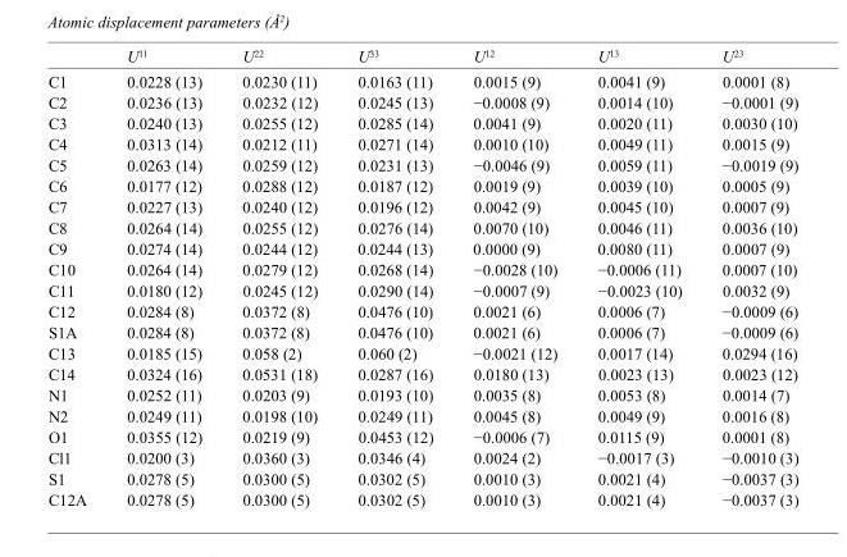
<table><thead><tr><td></td><td>U<sup>11</sup></td><td>U<sup>22</sup></td><td>U<sup>33</sup></td><td>U<sup>12</sup></td><td>U<sup>13</sup></td><td>U<sup>23</sup></td></tr></thead><tbody><tr><td>C1</td><td>0.0228 (13)</td><td>0.0230 (11)</td><td>0.0163 (11)</td><td>0.0015 (9)</td><td>0.0041 (9)</td><td>0.0001 (8)</td></tr><tr><td>C2</td><td>0.0236 (13)</td><td>0.0232 (12)</td><td>0.0245 (13)</td><td>−0.0008 (9)</td><td>0.0014 (10)</td><td>−0.0001 (9)</td></tr><tr><td>C3</td><td>0.0240 (13)</td><td>0.0255 (12)</td><td>0.0285 (14)</td><td>0.0041 (9)</td><td>0.0020 (11)</td><td>0.0030 (10)</td></tr><tr><td>C4</td><td>0.0313 (14)</td><td>0.0212 (11)</td><td>0.0271 (14)</td><td>0.0010 (10)</td><td>0.0049 (11)</td><td>0.0015 (9)</td></tr><tr><td>C5</td><td>0.0263 (14)</td><td>0.0259 (12)</td><td>0.0231 (13)</td><td>−0.0046 (9)</td><td>0.0059 (11)</td><td>−0.0019 (9)</td></tr><tr><td>C6</td><td>0.0177 (12)</td><td>0.0288 (12)</td><td>0.0187 (12)</td><td>0.0019 (9)</td><td>0.0039 (10)</td><td>0.0005 (9)</td></tr><tr><td>C7</td><td>0.0227 (13)</td><td>0.0240 (12)</td><td>0.0196 (12)</td><td>0.0042 (9)</td><td>0.0045 (10)</td><td>0.0007 (9)</td></tr><tr><td>C8</td><td>0.0264 (14)</td><td>0.0255 (12)</td><td>0.0276 (14)</td><td>0.0070 (10)</td><td>0.0046 (11)</td><td>0.0036 (10)</td></tr><tr><td>C9</td><td>0.0274 (14)</td><td>0.0244 (12)</td><td>0.0244 (13)</td><td>0.0000 (9)</td><td>0.0080 (11)</td><td>0.0007 (9)</td></tr><tr><td>C10</td><td>0.0264 (14)</td><td>0.0279 (12)</td><td>0.0268 (14)</td><td>−0.0028 (10)</td><td>−0.0006 (11)</td><td>0.0007 (10)</td></tr><tr><td>C11</td><td>0.0180 (12)</td><td>0.0245 (12)</td><td>0.0290 (14)</td><td>−0.0007 (9)</td><td>−0.0023 (10)</td><td>0.0032 (9)</td></tr><tr><td>C12</td><td>0.0284 (8)</td><td>0.0372 (8)</td><td>0.0476 (10)</td><td>0.0021 (6)</td><td>0.0006 (7)</td><td>−0.0009 (6)</td></tr><tr><td>S1A</td><td>0.0284 (8)</td><td>0.0372 (8)</td><td>0.0476 (10)</td><td>0.0021 (6)</td><td>0.0006 (7)</td><td>−0.0009 (6)</td></tr><tr><td>C13</td><td>0.0185 (15)</td><td>0.058 (2)</td><td>0.060 (2)</td><td>−0.0021 (12)</td><td>0.0017 (14)</td><td>0.0294 (16)</td></tr><tr><td>C14</td><td>0.0324 (16)</td><td>0.0531 (18)</td><td>0.0287 (16)</td><td>0.0180 (13)</td><td>0.0023 (13)</td><td>0.0023 (12)</td></tr><tr><td>N1</td><td>0.0252 (11)</td><td>0.0203 (9)</td><td>0.0193 (10)</td><td>0.0035 (8)</td><td>0.0053 (8)</td><td>0.0014 (7)</td></tr><tr><td>N2</td><td>0.0249 (11)</td><td>0.0198 (10)</td><td>0.0249 (11)</td><td>0.0045 (8)</td><td>0.0049 (9)</td><td>0.0016 (8)</td></tr><tr><td>O1</td><td>0.0355 (12)</td><td>0.0219 (9)</td><td>0.0453 (12)</td><td>−0.0006 (7)</td><td>0.0115 (9)</td><td>0.0001 (8)</td></tr><tr><td>Cl1</td><td>0.0200 (3)</td><td>0.0360 (3)</td><td>0.0346 (4)</td><td>0.0024 (2)</td><td>−0.0017 (3)</td><td>−0.0010 (3)</td></tr><tr><td>S1</td><td>0.0278 (5)</td><td>0.0300 (5)</td><td>0.0302 (5)</td><td>0.0010 (3)</td><td>0.0021 (4)</td><td>−0.0037 (3)</td></tr><tr><td>C12A</td><td>0.0278 (5)</td><td>0.0300 (5)</td><td>0.0302 (5)</td><td>0.0010 (3)</td><td>0.0021 (4)</td><td>−0.0037 (3)</td></tr></tbody></table>